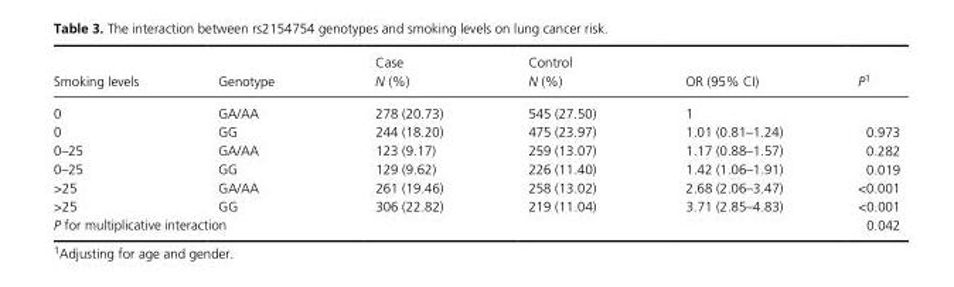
<table><thead><tr><td>Smoking levels</td><td>Genotype</td><td>Case N (%)</td><td>Control N (%)</td><td>OR (95% CI)</td><td>P1</td></tr></thead><tbody><tr><td>0</td><td>GA/AA</td><td>278 (20.73)</td><td>545 (27.50)</td><td>1</td><td></td></tr><tr><td>0</td><td>GG</td><td>244 (18.20)</td><td>475 (23.97)</td><td>1.01 (0.81–1.24)</td><td>0.973</td></tr><tr><td>0–25</td><td>GA/AA</td><td>123 (9.17)</td><td>259 (13.07)</td><td>1.17 (0.88–1.57)</td><td>0.282</td></tr><tr><td>0–25</td><td>GG</td><td>129 (9.62)</td><td>226 (11.40)</td><td>1.42 (1.06–1.91)</td><td>0.019</td></tr><tr><td>&gt;25</td><td>GA/AA</td><td>261 (19.46)</td><td>258 (13.02)</td><td>2.68 (2.06–3.47)</td><td>&lt;0.001</td></tr><tr><td>&gt;25</td><td>GG</td><td>306 (22.82)</td><td>219 (11.04)</td><td>3.71 (2.85–4.83)</td><td>&lt;0.001</td></tr><tr><td colspan="4">P for multiplicative interaction</td><td></td><td>0.042</td></tr></tbody></table>